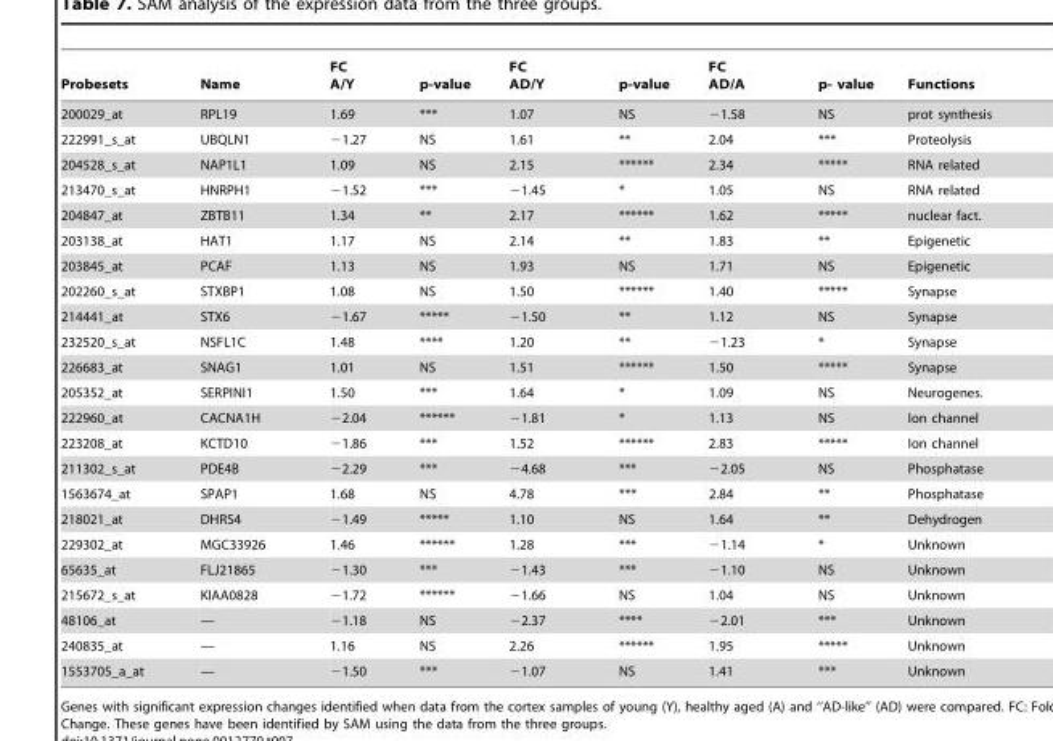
<table><thead><tr><td>Probesets</td><td>Name</td><td>FC A/Y</td><td>p-value</td><td>FC AD/Y</td><td>p-value</td><td>FC AD/A</td><td>p- value</td><td>Functions</td></tr></thead><tbody><tr><td>200029_at</td><td>RPL19</td><td>1.69</td><td>***</td><td>1.07</td><td>NS</td><td>−1.58</td><td>NS</td><td>prot synthesis</td></tr><tr><td>222991_s_at</td><td>UBQLN1</td><td>−1.27</td><td>NS</td><td>1.61</td><td>**</td><td>2.04</td><td>***</td><td>Proteolysis</td></tr><tr><td>204528_s_at</td><td>NAP1L1</td><td>1.09</td><td>NS</td><td>2.15</td><td>******</td><td>2.34</td><td>*****</td><td>RNA related</td></tr><tr><td>213470_s_at</td><td>HNRPH1</td><td>−1.52</td><td>***</td><td>−1.45</td><td>*</td><td>1.05</td><td>NS</td><td>RNA related</td></tr><tr><td>204847_at</td><td>ZBTB11</td><td>1.34</td><td>**</td><td>2.17</td><td>******</td><td>1.62</td><td>*****</td><td>nuclear fact.</td></tr><tr><td>203138_at</td><td>HAT1</td><td>1.17</td><td>NS</td><td>2.14</td><td>**</td><td>1.83</td><td>**</td><td>Epigenetic</td></tr><tr><td>203845_at</td><td>PCAF</td><td>1.13</td><td>NS</td><td>1.93</td><td>NS</td><td>1.71</td><td>NS</td><td>Epigenetic</td></tr><tr><td>202260_s_at</td><td>STXBP1</td><td>1.08</td><td>NS</td><td>1.50</td><td>******</td><td>1.40</td><td>*****</td><td>Synapse</td></tr><tr><td>214441_at</td><td>STX6</td><td>−1.67</td><td>*****</td><td>−1.50</td><td>**</td><td>1.12</td><td>NS</td><td>Synapse</td></tr><tr><td>232520_s_at</td><td>NSFL1C</td><td>1.48</td><td>****</td><td>1.20</td><td>**</td><td>−1.23</td><td>*</td><td>Synapse</td></tr><tr><td>226683_at</td><td>SNAG1</td><td>1.01</td><td>NS</td><td>1.51</td><td>******</td><td>1.50</td><td>*****</td><td>Synapse</td></tr><tr><td>205352_at</td><td>SERPINI1</td><td>1.50</td><td>***</td><td>1.64</td><td>*</td><td>1.09</td><td>NS</td><td>Neurogenes.</td></tr><tr><td>222960_at</td><td>CACNA1H</td><td>−2.04</td><td>******</td><td>−1.81</td><td>*</td><td>1.13</td><td>NS</td><td>Ion channel</td></tr><tr><td>223208_at</td><td>KCTD10</td><td>−1.86</td><td>***</td><td>1.52</td><td>******</td><td>2.83</td><td>*****</td><td>Ion channel</td></tr><tr><td>211302_s_at</td><td>PDE4B</td><td>−2.29</td><td>***</td><td>−4.68</td><td>***</td><td>−2.05</td><td>NS</td><td>Phosphatase</td></tr><tr><td>1563674_at</td><td>SPAP1</td><td>1.68</td><td>NS</td><td>4.78</td><td>***</td><td>2.84</td><td>**</td><td>Phosphatase</td></tr><tr><td>218021_at</td><td>DHRS4</td><td>−1.49</td><td>*****</td><td>1.10</td><td>NS</td><td>1.64</td><td>**</td><td>Dehydrogen</td></tr><tr><td>229302_at</td><td>MGC33926</td><td>1.46</td><td>******</td><td>1.28</td><td>***</td><td>−1.14</td><td>*</td><td>Unknown</td></tr><tr><td>65635_at</td><td>FLJ21865</td><td>−1.30</td><td>***</td><td>−1.43</td><td>***</td><td>−1.10</td><td>NS</td><td>Unknown</td></tr><tr><td>215672_s_at</td><td>KIAA0828</td><td>−1.72</td><td>******</td><td>−1.66</td><td>NS</td><td>1.04</td><td>NS</td><td>Unknown</td></tr><tr><td>48106_at</td><td>—</td><td>−1.18</td><td>NS</td><td>−2.37</td><td>****</td><td>−2.01</td><td>***</td><td>Unknown</td></tr><tr><td>240835_at</td><td>—</td><td>1.16</td><td>NS</td><td>2.26</td><td>******</td><td>1.95</td><td>*****</td><td>Unknown</td></tr><tr><td>1553705_a_at</td><td>—</td><td>−1.50</td><td>***</td><td>−1.07</td><td>NS</td><td>1.41</td><td>***</td><td>Unknown</td></tr></tbody></table>